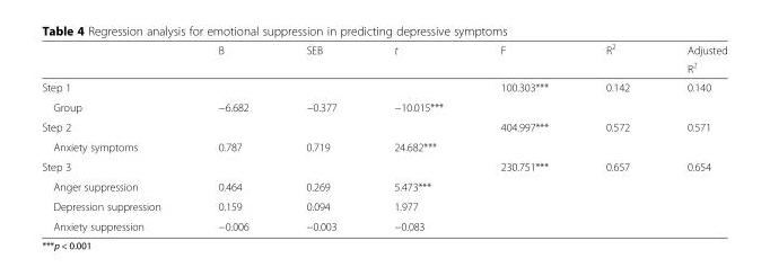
<table><thead><tr><td rowspan="2"></td><td rowspan="2">B</td><td rowspan="2">SEB</td><td rowspan="2">t</td><td rowspan="2">F</td><td rowspan="2">R<sup>2</sup></td><td rowspan="2">Adjusted R<sup>2</sup></td></tr><tr></tr></thead><tbody><tr><td>Step 1</td><td></td><td></td><td></td><td>100.303***</td><td>0.142</td><td>0.140</td></tr><tr><td>Group</td><td>−6.682</td><td>−0.377</td><td>−10.015***</td><td></td><td></td><td></td></tr><tr><td>Step 2</td><td></td><td></td><td></td><td>404.997***</td><td>0.572</td><td>0.571</td></tr><tr><td>Anxiety symptoms</td><td>0.787</td><td>0.719</td><td>24.682***</td><td></td><td></td><td></td></tr><tr><td>Step 3</td><td></td><td></td><td></td><td>230.751***</td><td>0.657</td><td>0.654</td></tr><tr><td>Anger suppression</td><td>0.464</td><td>0.269</td><td>5.473***</td><td></td><td></td><td></td></tr><tr><td>Depression suppression</td><td>0.159</td><td>0.094</td><td>1.977</td><td></td><td></td><td></td></tr><tr><td>Anxiety suppression</td><td>−0.006</td><td>−0.003</td><td>−0.083</td><td></td><td></td><td></td></tr></tbody></table>